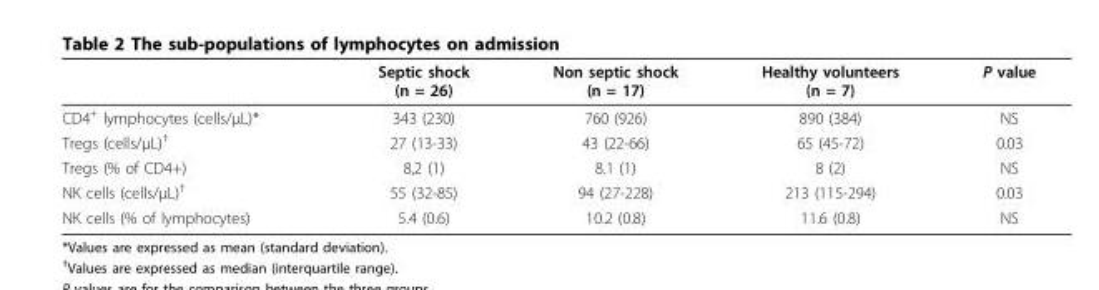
<table><thead><tr><td></td><td>Septic shock (n = 26)</td><td>Non septic shock (n = 17)</td><td>Healthy volunteers (n = 7)</td><td>P value</td></tr></thead><tbody><tr><td>CD4<sup>+</sup> lymphocytes (cells/μL)*</td><td>343 (230)</td><td>760 (926)</td><td>890 (384)</td><td>NS</td></tr><tr><td>Tregs (cells/μL)<sup>†</sup></td><td>27 (13-33)</td><td>43 (22-66)</td><td>65 (45-72)</td><td>0.03</td></tr><tr><td>Tregs (% of CD4+)</td><td>8,2 (1)</td><td>8.1 (1)</td><td>8 (2)</td><td>NS</td></tr><tr><td>NK cells (cells/μL)<sup>†</sup></td><td>55 (32-85)</td><td>94 (27-228)</td><td>213 (115-294)</td><td>0.03</td></tr><tr><td>NK cells (% of lymphocytes)</td><td>5.4 (0.6)</td><td>10.2 (0.8)</td><td>11.6 (0.8)</td><td>NS</td></tr></tbody></table>